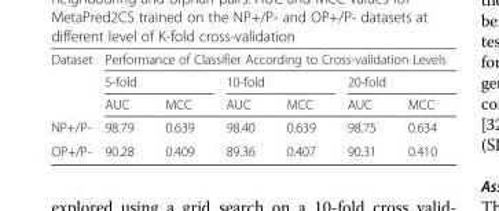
<table><thead><tr><td rowspan="3">Dataset</td><td colspan="6">Performance of Classifier According to Cross-validation Levels</td></tr><tr><td colspan="2">5-fold</td><td colspan="2">10-fold</td><td colspan="2">20-fold</td></tr><tr><td>AUC</td><td>MCC</td><td>AUC</td><td>MCC</td><td>AUC</td><td>MCC</td></tr></thead><tbody><tr><td>NP+/P-</td><td>98.79</td><td>0.639</td><td>98.40</td><td>0.639</td><td>98.75</td><td>0.634</td></tr><tr><td>OP+/P-</td><td>90.28</td><td>0.409</td><td>89.36</td><td>0.407</td><td>90.31</td><td>0.410</td></tr></tbody></table>